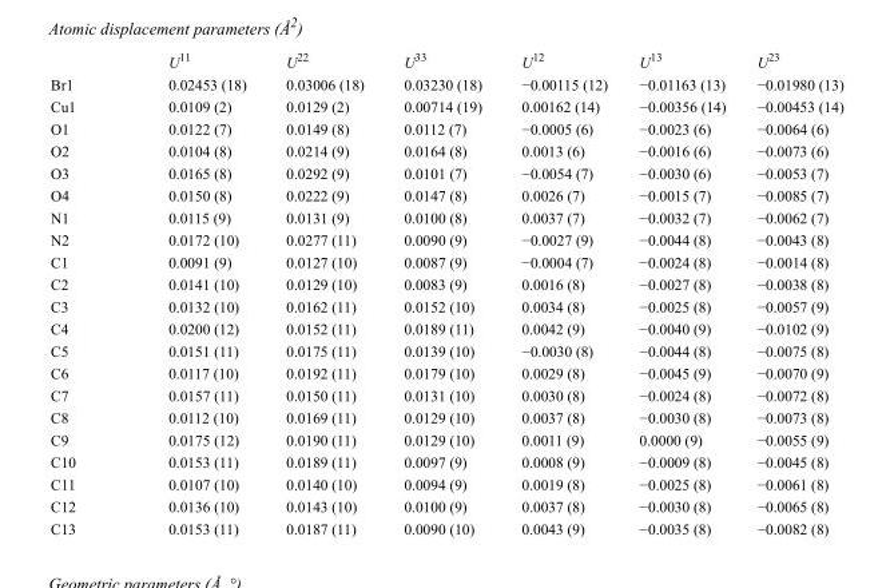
<table><thead><tr><td></td><td>U<sup>11</sup></td><td>U<sup>22</sup></td><td>U<sup>33</sup></td><td>U<sup>12</sup></td><td>U<sup>13</sup></td><td>U<sup>23</sup></td></tr></thead><tbody><tr><td>Br1</td><td>0.02453 (18)</td><td>0.03006 (18)</td><td>0.03230 (18)</td><td>−0.00115 (12)</td><td>−0.01163 (13)</td><td>−0.01980 (13)</td></tr><tr><td>Cu1</td><td>0.0109 (2)</td><td>0.0129 (2)</td><td>0.00714 (19)</td><td>0.00162 (14)</td><td>−0.00356 (14)</td><td>−0.00453 (14)</td></tr><tr><td>O1</td><td>0.0122 (7)</td><td>0.0149 (8)</td><td>0.0112 (7)</td><td>−0.0005 (6)</td><td>−0.0023 (6)</td><td>−0.0064 (6)</td></tr><tr><td>O2</td><td>0.0104 (8)</td><td>0.0214 (9)</td><td>0.0164 (8)</td><td>0.0013 (6)</td><td>−0.0016 (6)</td><td>−0.0073 (6)</td></tr><tr><td>O3</td><td>0.0165 (8)</td><td>0.0292 (9)</td><td>0.0101 (7)</td><td>−0.0054 (7)</td><td>−0.0030 (6)</td><td>−0.0053 (7)</td></tr><tr><td>O4</td><td>0.0150 (8)</td><td>0.0222 (9)</td><td>0.0147 (8)</td><td>0.0026 (7)</td><td>−0.0015 (7)</td><td>−0.0085 (7)</td></tr><tr><td>N1</td><td>0.0115 (9)</td><td>0.0131 (9)</td><td>0.0100 (8)</td><td>0.0037 (7)</td><td>−0.0032 (7)</td><td>−0.0062 (7)</td></tr><tr><td>N2</td><td>0.0172 (10)</td><td>0.0277 (11)</td><td>0.0090 (9)</td><td>−0.0027 (9)</td><td>−0.0044 (8)</td><td>−0.0043 (8)</td></tr><tr><td>C1</td><td>0.0091 (9)</td><td>0.0127 (10)</td><td>0.0087 (9)</td><td>−0.0004 (7)</td><td>−0.0024 (8)</td><td>−0.0014 (8)</td></tr><tr><td>C2</td><td>0.0141 (10)</td><td>0.0129 (10)</td><td>0.0083 (9)</td><td>0.0016 (8)</td><td>−0.0027 (8)</td><td>−0.0038 (8)</td></tr><tr><td>C3</td><td>0.0132 (10)</td><td>0.0162 (11)</td><td>0.0152 (10)</td><td>0.0034 (8)</td><td>−0.0025 (8)</td><td>−0.0057 (9)</td></tr><tr><td>C4</td><td>0.0200 (12)</td><td>0.0152 (11)</td><td>0.0189 (11)</td><td>0.0042 (9)</td><td>−0.0040 (9)</td><td>−0.0102 (9)</td></tr><tr><td>C5</td><td>0.0151 (11)</td><td>0.0175 (11)</td><td>0.0139 (10)</td><td>−0.0030 (8)</td><td>−0.0044 (8)</td><td>−0.0075 (8)</td></tr><tr><td>C6</td><td>0.0117 (10)</td><td>0.0192 (11)</td><td>0.0179 (10)</td><td>0.0029 (8)</td><td>−0.0045 (9)</td><td>−0.0070 (9)</td></tr><tr><td>C7</td><td>0.0157 (11)</td><td>0.0150 (11)</td><td>0.0131 (10)</td><td>0.0030 (8)</td><td>−0.0024 (8)</td><td>−0.0072 (8)</td></tr><tr><td>C8</td><td>0.0112 (10)</td><td>0.0169 (11)</td><td>0.0129 (10)</td><td>0.0037 (8)</td><td>−0.0030 (8)</td><td>−0.0073 (8)</td></tr><tr><td>C9</td><td>0.0175 (12)</td><td>0.0190 (11)</td><td>0.0129 (10)</td><td>0.0011 (9)</td><td>0.0000 (9)</td><td>−0.0055 (9)</td></tr><tr><td>C10</td><td>0.0153 (11)</td><td>0.0189 (11)</td><td>0.0097 (9)</td><td>0.0008 (9)</td><td>−0.0009 (8)</td><td>−0.0045 (8)</td></tr><tr><td>C11</td><td>0.0107 (10)</td><td>0.0140 (10)</td><td>0.0094 (9)</td><td>0.0019 (8)</td><td>−0.0025 (8)</td><td>−0.0061 (8)</td></tr><tr><td>C12</td><td>0.0136 (10)</td><td>0.0143 (10)</td><td>0.0100 (9)</td><td>0.0037 (8)</td><td>−0.0030 (8)</td><td>−0.0065 (8)</td></tr><tr><td>C13</td><td>0.0153 (11)</td><td>0.0187 (11)</td><td>0.0090 (10)</td><td>0.0043 (9)</td><td>−0.0035 (8)</td><td>−0.0082 (8)</td></tr></tbody></table>